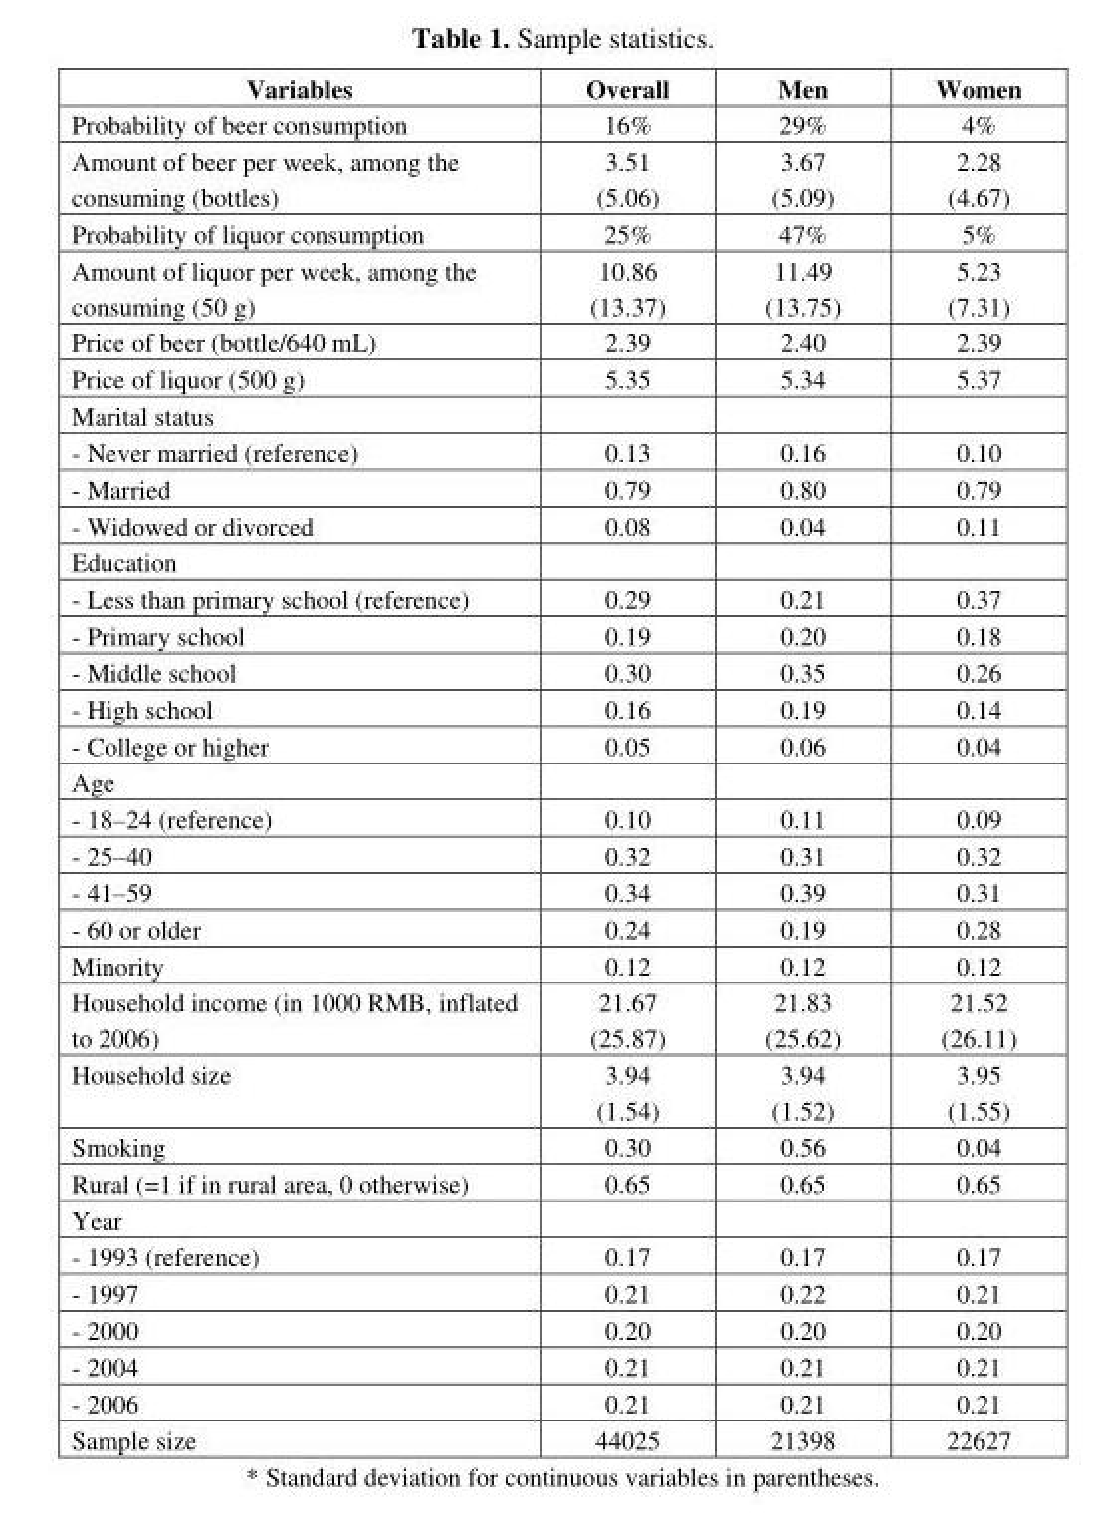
<table><thead><tr><td>Variables</td><td>Overall</td><td>Men</td><td>Women</td></tr></thead><tbody><tr><td>Probability of beer consumption</td><td>16%</td><td>29%</td><td>4%</td></tr><tr><td>Amount of beer per week, among the consuming (bottles)</td><td>3.51 (5.06)</td><td>3.67 (5.09)</td><td>2.28 (4.67)</td></tr><tr><td>Probability of liquor consumption</td><td>25%</td><td>47%</td><td>5%</td></tr><tr><td>Amount of liquor per week, among the consuming (50 g)</td><td>10.86 (13.37)</td><td>11.49 (13.75)</td><td>5.23 (7.31)</td></tr><tr><td>Price of beer (bottle/640 mL)</td><td>2.39</td><td>2.40</td><td>2.39</td></tr><tr><td>Price of liquor (500 g)</td><td>5.35</td><td>5.34</td><td>5.37</td></tr><tr><td colspan="4">Marital status</td></tr><tr><td>- Never married (reference)</td><td>0.13</td><td>0.16</td><td>0.10</td></tr><tr><td>- Married</td><td>0.79</td><td>0.80</td><td>0.79</td></tr><tr><td>- Widowed or divorced</td><td>0.08</td><td>0.04</td><td>0.11</td></tr><tr><td colspan="4">Education</td></tr><tr><td>- Less than primary school (reference)</td><td>0.29</td><td>0.21</td><td>0.37</td></tr><tr><td>- Primary school</td><td>0.19</td><td>0.20</td><td>0.18</td></tr><tr><td>- Middle school</td><td>0.30</td><td>0.35</td><td>0.26</td></tr><tr><td>- High school</td><td>0.16</td><td>0.19</td><td>0.14</td></tr><tr><td>- College or higher</td><td>0.05</td><td>0.06</td><td>0.04</td></tr><tr><td colspan="4">Age</td></tr><tr><td>- 18–24 (reference)</td><td>0.10</td><td>0.11</td><td>0.09</td></tr><tr><td>- 25–40</td><td>0.32</td><td>0.31</td><td>0.32</td></tr><tr><td>- 41–59</td><td>0.34</td><td>0.39</td><td>0.31</td></tr><tr><td>- 60 or older</td><td>0.24</td><td>0.19</td><td>0.28</td></tr><tr><td>Minority</td><td>0.12</td><td>0.12</td><td>0.12</td></tr><tr><td>Household income (in 1000 RMB, inflated to 2006)</td><td>21.67 (25.87)</td><td>21.83 (25.62)</td><td>21.52 (26.11)</td></tr><tr><td>Household size</td><td>3.94 (1.54)</td><td>3.94 (1.52)</td><td>3.95 (1.55)</td></tr><tr><td>Smoking</td><td>0.30</td><td>0.56</td><td>0.04</td></tr><tr><td>Rural (=1 if in rural area, 0 otherwise)</td><td>0.65</td><td>0.65</td><td>0.65</td></tr><tr><td colspan="4">Year</td></tr><tr><td>- 1993 (reference)</td><td>0.17</td><td>0.17</td><td>0.17</td></tr><tr><td>- 1997</td><td>0.21</td><td>0.22</td><td>0.21</td></tr><tr><td>- 2000</td><td>0.20</td><td>0.20</td><td>0.20</td></tr><tr><td>- 2004</td><td>0.21</td><td>0.21</td><td>0.21</td></tr><tr><td>- 2006</td><td>0.21</td><td>0.21</td><td>0.21</td></tr><tr><td>Sample size</td><td>44025</td><td>21398</td><td>22627</td></tr></tbody></table>